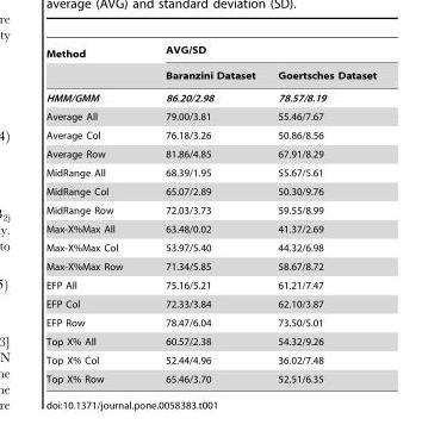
<table><thead><tr><td rowspan="2">Method</td><td colspan="2">AVG/SD</td></tr><tr><td>Baranzini Dataset</td><td>Goertsches Dataset</td></tr></thead><tbody><tr><td>HMM/GMM</td><td>86.20/2.98</td><td>78.57/8.19</td></tr><tr><td>Average All</td><td>79.00/3.81</td><td>55.46/7.67</td></tr><tr><td>Average Col</td><td>76.18/3.26</td><td>50.86/8.56</td></tr><tr><td>Average Row</td><td>81.86/4.85</td><td>67.91/8.29</td></tr><tr><td>MidRange All</td><td>68.39/1.95</td><td>55.67/5.61</td></tr><tr><td>MidRange Col</td><td>65.07/2.89</td><td>50.30/9.76</td></tr><tr><td>MidRange Row</td><td>72.03/3.73</td><td>59.55/8.99</td></tr><tr><td>Max-X%Max All</td><td>63.48/0.02</td><td>41.37/2.69</td></tr><tr><td>Max-X%Max Col</td><td>53.97/5.40</td><td>44.32/6.98</td></tr><tr><td>Max-X%Max Row</td><td>71.34/5.85</td><td>58.67/8.72</td></tr><tr><td>EFP All</td><td>75.16/5.21</td><td>61.21/7.47</td></tr><tr><td>EFP Col</td><td>72.33/3.84</td><td>62.10/3.87</td></tr><tr><td>EFP Row</td><td>78.47/6.04</td><td>73.50/5.01</td></tr><tr><td>Top X% All</td><td>60.57/2.38</td><td>54.32/9.26</td></tr><tr><td>Top X% Col</td><td>52.44/4.96</td><td>36.02/7.48</td></tr><tr><td>Top X% Row</td><td>65.46/3.70</td><td>52.51/6.35</td></tr></tbody></table>